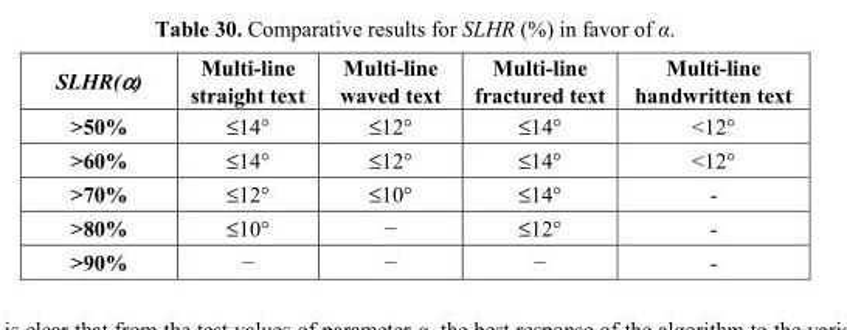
<table><thead><tr><td>SLHR(α)</td><td>Multi-line straight text</td><td>Multi-line waved text</td><td>Multi-line fractured text</td><td>Multi-line handwritten text</td></tr></thead><tbody><tr><td>&gt;50%</td><td>≤14°</td><td>≤12°</td><td>≤14°</td><td>&lt;12°</td></tr><tr><td>&gt;60%</td><td>≤14°</td><td>≤12°</td><td>≤14°</td><td>&lt;12°</td></tr><tr><td>&gt;70%</td><td>≤12°</td><td>≤10°</td><td>≤14°</td><td>-</td></tr><tr><td>&gt;80%</td><td>≤10°</td><td>−</td><td>≤12°</td><td>-</td></tr><tr><td>&gt;90%</td><td>−</td><td>−</td><td>−</td><td>-</td></tr></tbody></table>